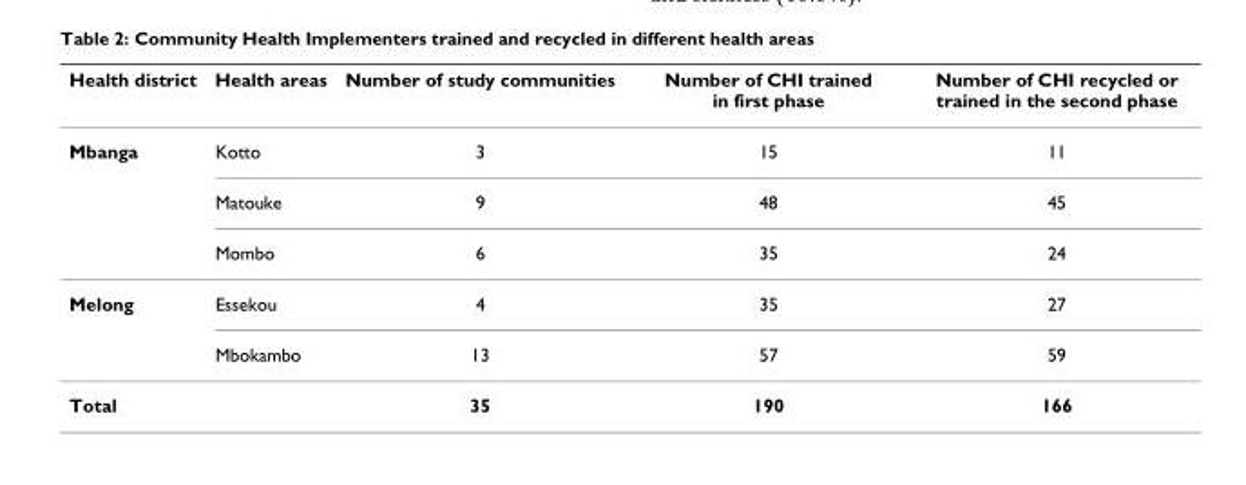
<table><thead><tr><td>Health district</td><td>Health areas</td><td>Number of study communities</td><td>Number of CHI trained in first phase</td><td>Number of CHI recycled or trained in the second phase</td></tr></thead><tbody><tr><td rowspan="3">Mbanga</td><td>Kotto</td><td>3</td><td>15</td><td>11</td></tr><tr><td>Matouke</td><td>9</td><td>48</td><td>45</td></tr><tr><td>Mombo</td><td>6</td><td>35</td><td>24</td></tr><tr><td rowspan="2">Melong</td><td>Essekou</td><td>4</td><td>35</td><td>27</td></tr><tr><td>Mbokambo</td><td>13</td><td>57</td><td>59</td></tr><tr><td>Total</td><td></td><td>35</td><td>190</td><td>166</td></tr></tbody></table>